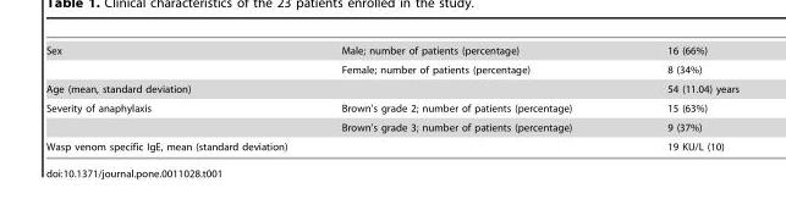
<table><tbody><tr><td rowspan="2">Sex</td><td>Male; number of patients (percentage)</td><td>16 (66%)</td></tr><tr><td>Female; number of patients (percentage)</td><td>8 (34%)</td></tr><tr><td colspan="2">Age (mean, standard deviation)</td><td>54 (11.04) years</td></tr><tr><td rowspan="2">Severity of anaphylaxis</td><td>Brown’s grade 2; number of patients (percentage)</td><td>15 (63%)</td></tr><tr><td>Brown’s grade 3; number of patients (percentage)</td><td>9 (37%)</td></tr><tr><td colspan="2">Wasp venom specific IgE, mean (standard deviation)</td><td>19 KU/L (10)</td></tr></tbody></table>